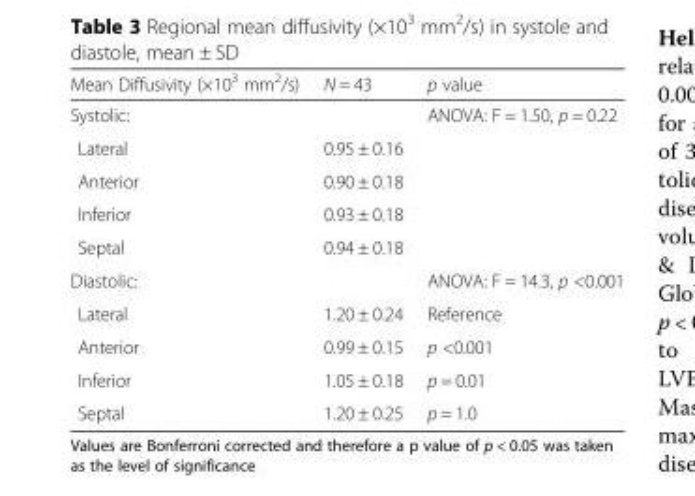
<table><thead><tr><td>Mean Diffusivity (×10<sup>3</sup> mm<sup>2</sup>/s)</td><td>N = 43</td><td>p value</td></tr></thead><tbody><tr><td>Systolic:</td><td></td><td>ANOVA: F = 1.50, p = 0.22</td></tr><tr><td>Lateral</td><td>0.95 ± 0.16</td><td></td></tr><tr><td>Anterior</td><td>0.90 ± 0.18</td><td></td></tr><tr><td>Inferior</td><td>0.93 ± 0.18</td><td></td></tr><tr><td>Septal</td><td>0.94 ± 0.18</td><td></td></tr><tr><td>Diastolic:</td><td></td><td>ANOVA: F = 14.3, p &lt;0.001</td></tr><tr><td>Lateral</td><td>1.20 ± 0.24</td><td>Reference</td></tr><tr><td>Anterior</td><td>0.99 ± 0.15</td><td>p &lt;0.001</td></tr><tr><td>Inferior</td><td>1.05 ± 0.18</td><td>p = 0.01</td></tr><tr><td>Septal</td><td>1.20 ± 0.25</td><td>p = 1.0</td></tr></tbody></table>